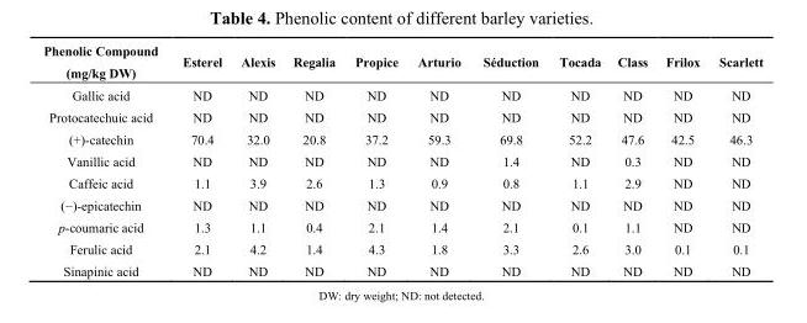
<table><thead><tr><td>Phenolic Compound (mg/kg DW)</td><td>Esterel</td><td>Alexis</td><td>Regalia</td><td>Propice</td><td>Arturio</td><td>Séduction</td><td>Tocada</td><td>Class</td><td>Frilox</td><td>Scarlett</td></tr></thead><tbody><tr><td>Gallic acid</td><td>ND</td><td>ND</td><td>ND</td><td>ND</td><td>ND</td><td>ND</td><td>ND</td><td>ND</td><td>ND</td><td>ND</td></tr><tr><td>Protocatechuic acid</td><td>ND</td><td>ND</td><td>ND</td><td>ND</td><td>ND</td><td>ND</td><td>ND</td><td>ND</td><td>ND</td><td>ND</td></tr><tr><td>(+)-catechin</td><td>70.4</td><td>32.0</td><td>20.8</td><td>37.2</td><td>59.3</td><td>69.8</td><td>52.2</td><td>47.6</td><td>42.5</td><td>46.3</td></tr><tr><td>Vanillic acid</td><td>ND</td><td>ND</td><td>ND</td><td>ND</td><td>ND</td><td>1.4</td><td>ND</td><td>0.3</td><td>ND</td><td>ND</td></tr><tr><td>Caffeic acid</td><td>1.1</td><td>3.9</td><td>2.6</td><td>1.3</td><td>0.9</td><td>0.8</td><td>1.1</td><td>2.9</td><td>ND</td><td>ND</td></tr><tr><td>(−)-epicatechin</td><td>ND</td><td>ND</td><td>ND</td><td>ND</td><td>ND</td><td>ND</td><td>ND</td><td>ND</td><td>ND</td><td>ND</td></tr><tr><td>p-coumaric acid</td><td>1.3</td><td>1.1</td><td>0.4</td><td>2.1</td><td>1.4</td><td>2.1</td><td>0.1</td><td>1.1</td><td>ND</td><td>ND</td></tr><tr><td>Ferulic acid</td><td>2.1</td><td>4.2</td><td>1.4</td><td>4.3</td><td>1.8</td><td>3.3</td><td>2.6</td><td>3.0</td><td>0.1</td><td>0.1</td></tr><tr><td>Sinapinic acid</td><td>ND</td><td>ND</td><td>ND</td><td>ND</td><td>ND</td><td>ND</td><td>ND</td><td>ND</td><td>ND</td><td>ND</td></tr></tbody></table>